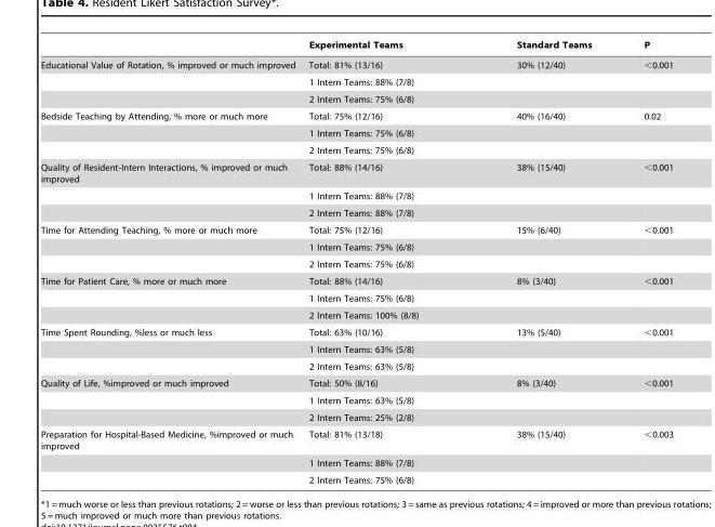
<table><thead><tr><td></td><td>Experimental Teams</td><td>Standard Teams</td><td>P</td></tr></thead><tbody><tr><td rowspan="3">Educational Value of Rotation, % improved or much improved</td><td>Total: 81% (13/16)</td><td>30% (12/40)</td><td>&lt;0.001</td></tr><tr><td>1 Intern Teams: 88% (7/8)</td><td></td><td></td></tr><tr><td>2 Intern Teams: 75% (6/8)</td><td></td><td></td></tr><tr><td rowspan="3">Bedside Teaching by Attending, % more or much more</td><td>Total: 75% (12/16)</td><td>40% (16/40)</td><td>0.02</td></tr><tr><td>1 Intern Teams: 75% (6/8)</td><td></td><td></td></tr><tr><td>2 Intern Teams: 75% (6/8)</td><td></td><td></td></tr><tr><td rowspan="3">Quality of Resident-Intern Interactions, % improved or much improved</td><td>Total: 88% (14/16)</td><td>38% (15/40)</td><td>&lt;0.001</td></tr><tr><td>1 Intern Teams: 88% (7/8)</td><td></td><td></td></tr><tr><td>2 Intern Teams: 88% (7/8)</td><td></td><td></td></tr><tr><td rowspan="3">Time for Attending Teaching, % more or much more</td><td>Total: 75% (12/16)</td><td>15% (6/40)</td><td>&lt;0.001</td></tr><tr><td>1 Intern Teams: 75% (6/8)</td><td></td><td></td></tr><tr><td>2 Intern Teams: 75% (6/8)</td><td></td><td></td></tr><tr><td rowspan="3">Time for Patient Care, % more or much more</td><td>Total: 88% (14/16)</td><td>8% (3/40)</td><td>&lt;0.001</td></tr><tr><td>1 Intern Teams: 75% (6/8)</td><td></td><td></td></tr><tr><td>2 Intern Teams: 100% (8/8)</td><td></td><td></td></tr><tr><td rowspan="3">Time Spent Rounding, %less or much less</td><td>Total: 63% (10/16)</td><td>13% (5/40)</td><td>&lt;0.001</td></tr><tr><td>1 Intern Teams: 63% (5/8)</td><td></td><td></td></tr><tr><td>2 Intern Teams: 63% (5/8)</td><td></td><td></td></tr><tr><td rowspan="3">Quality of Life, %improved or much improved</td><td>Total: 50% (8/16)</td><td>8% (3/40)</td><td>&lt;0.001</td></tr><tr><td>1 Intern Teams: 63% (5/8)</td><td></td><td></td></tr><tr><td>2 Intern Teams: 25% (2/8)</td><td></td><td></td></tr><tr><td rowspan="3">Preparation for Hospital-Based Medicine, %improved or much improved</td><td>Total: 81% (13/18)</td><td>38% (15/40)</td><td>&lt;0.003</td></tr><tr><td>1 Intern Teams: 88% (7/8)</td><td></td><td></td></tr><tr><td>2 Intern Teams: 75% (6/8)</td><td></td><td></td></tr></tbody></table>